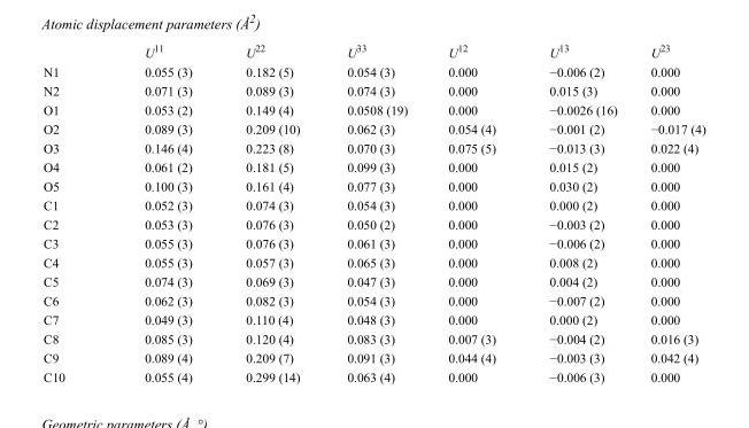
<table><thead><tr><td></td><td>U<sup>11</sup></td><td>U<sup>22</sup></td><td>U<sup>33</sup></td><td>U<sup>12</sup></td><td>U<sup>13</sup></td><td>U<sup>23</sup></td></tr></thead><tbody><tr><td>N1</td><td>0.055 (3)</td><td>0.182 (5)</td><td>0.054 (3)</td><td>0.000</td><td>−0.006 (2)</td><td>0.000</td></tr><tr><td>N2</td><td>0.071 (3)</td><td>0.089 (3)</td><td>0.074 (3)</td><td>0.000</td><td>0.015 (3)</td><td>0.000</td></tr><tr><td>O1</td><td>0.053 (2)</td><td>0.149 (4)</td><td>0.0508 (19)</td><td>0.000</td><td>−0.0026 (16)</td><td>0.000</td></tr><tr><td>O2</td><td>0.089 (3)</td><td>0.209 (10)</td><td>0.062 (3)</td><td>0.054 (4)</td><td>−0.001 (2)</td><td>−0.017 (4)</td></tr><tr><td>O3</td><td>0.146 (4)</td><td>0.223 (8)</td><td>0.070 (3)</td><td>0.075 (5)</td><td>−0.013 (3)</td><td>0.022 (4)</td></tr><tr><td>O4</td><td>0.061 (2)</td><td>0.181 (5)</td><td>0.099 (3)</td><td>0.000</td><td>0.015 (2)</td><td>0.000</td></tr><tr><td>O5</td><td>0.100 (3)</td><td>0.161 (4)</td><td>0.077 (3)</td><td>0.000</td><td>0.030 (2)</td><td>0.000</td></tr><tr><td>C1</td><td>0.052 (3)</td><td>0.074 (3)</td><td>0.054 (3)</td><td>0.000</td><td>0.000 (2)</td><td>0.000</td></tr><tr><td>C2</td><td>0.053 (3)</td><td>0.076 (3)</td><td>0.050 (2)</td><td>0.000</td><td>−0.003 (2)</td><td>0.000</td></tr><tr><td>C3</td><td>0.055 (3)</td><td>0.076 (3)</td><td>0.061 (3)</td><td>0.000</td><td>−0.006 (2)</td><td>0.000</td></tr><tr><td>C4</td><td>0.055 (3)</td><td>0.057 (3)</td><td>0.065 (3)</td><td>0.000</td><td>0.008 (2)</td><td>0.000</td></tr><tr><td>C5</td><td>0.074 (3)</td><td>0.069 (3)</td><td>0.047 (3)</td><td>0.000</td><td>0.004 (2)</td><td>0.000</td></tr><tr><td>C6</td><td>0.062 (3)</td><td>0.082 (3)</td><td>0.054 (3)</td><td>0.000</td><td>−0.007 (2)</td><td>0.000</td></tr><tr><td>C7</td><td>0.049 (3)</td><td>0.110 (4)</td><td>0.048 (3)</td><td>0.000</td><td>0.000 (2)</td><td>0.000</td></tr><tr><td>C8</td><td>0.085 (3)</td><td>0.120 (4)</td><td>0.083 (3)</td><td>0.007 (3)</td><td>−0.004 (2)</td><td>0.016 (3)</td></tr><tr><td>C9</td><td>0.089 (4)</td><td>0.209 (7)</td><td>0.091 (3)</td><td>0.044 (4)</td><td>−0.003 (3)</td><td>0.042 (4)</td></tr><tr><td>C10</td><td>0.055 (4)</td><td>0.299 (14)</td><td>0.063 (4)</td><td>0.000</td><td>−0.006 (3)</td><td>0.000</td></tr></tbody></table>